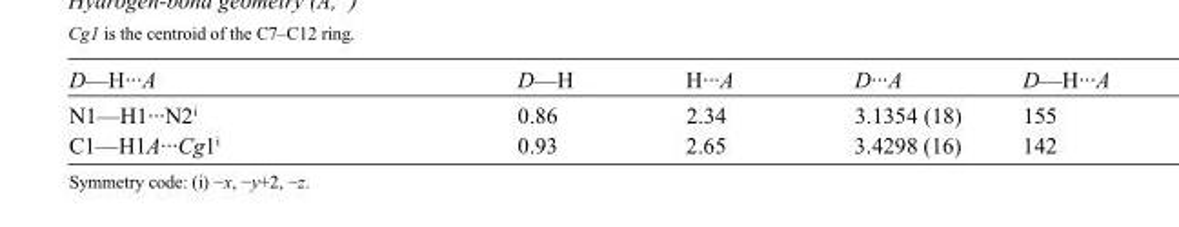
<table><tbody><tr><td>D—H···A</td><td>D—H</td><td>H···A</td><td>D···A</td><td>D—H···A</td></tr><tr><td>N1—H1···N2<sup>i</sup></td><td>0.86</td><td>2.34</td><td>3.1354 (18)</td><td>155</td></tr><tr><td>C1—H1A···Cg1<sup>i</sup></td><td>0.93</td><td>2.65</td><td>3.4298 (16)</td><td>142</td></tr></tbody></table>